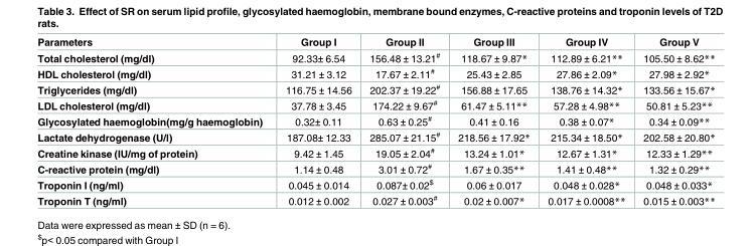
<table><thead><tr><td>Parameters</td><td>Group I</td><td>Group II</td><td>Group III</td><td>Group IV</td><td>Group V</td></tr></thead><tbody><tr><td>Total cholesterol (mg/dl)</td><td>92.33± 6.54</td><td>156.48 ± 13.21<sup>#</sup></td><td>118.67 ± 9.87*</td><td>112.89 ± 6.21**</td><td>105.50 ± 8.62**</td></tr><tr><td>HDL cholesterol (mg/dl)</td><td>31.21 ± 3.12</td><td>17.67 ± 2.11<sup>#</sup></td><td>25.43 ± 2.85</td><td>27.86 ± 2.09*</td><td>27.98 ± 2.92*</td></tr><tr><td>Triglycerides (mg/dl)</td><td>116.75 ± 14.56</td><td>202.37 ± 19.22<sup>#</sup></td><td>156.88 ± 17.65</td><td>138.76 ± 14.32*</td><td>133.56 ± 15.67*</td></tr><tr><td>LDL cholesterol (mg/dl)</td><td>37.78 ± 3.45</td><td>174.22 ± 9.67<sup>#</sup></td><td>61.47 ± 5.11**</td><td>57.28 ± 4.98**</td><td>50.81 ± 5.23**</td></tr><tr><td>Glycosylated haemoglobin(mg/g haemoglobin)</td><td>0.32± 0.11</td><td>0.63 ± 0.25<sup>#</sup></td><td>0.41 ± 0.16</td><td>0.38 ± 0.07*</td><td>0.34 ± 0.09**</td></tr><tr><td>Lactate dehydrogenase (U/l)</td><td>187.08± 12.33</td><td>285.07 ± 21.15<sup>#</sup></td><td>218.56 ± 17.92*</td><td>215.34 ± 18.50*</td><td>202.58 ± 20.80*</td></tr><tr><td>Creatine kinase (IU/mg of protein)</td><td>9.42 ± 1.45</td><td>19.05 ± 2.04<sup>#</sup></td><td>13.24 ± 1.01*</td><td>12.67 ± 1.31*</td><td>12.33 ± 1.29**</td></tr><tr><td>C-reactive protein (mg/dl)</td><td>1.14 ± 0.48</td><td>3.01 ± 0.72<sup>#</sup></td><td>1.67 ± 0.35**</td><td>1.41 ± 0.48**</td><td>1.32 ± 0.29**</td></tr><tr><td>Troponin I (ng/ml)</td><td>0.045 ± 0.014</td><td>0.087± 0.02<sup>$</sup></td><td>0.06 ± 0.017</td><td>0.048 ± 0.028*</td><td>0.048 ± 0.033*</td></tr><tr><td>Troponin T (ng/ml)</td><td>0.012 ± 0.002</td><td>0.027 ± 0.003<sup>#</sup></td><td>0.02 ± 0.007*</td><td>0.017 ± 0.0008**</td><td>0.015 ± 0.003**</td></tr></tbody></table>